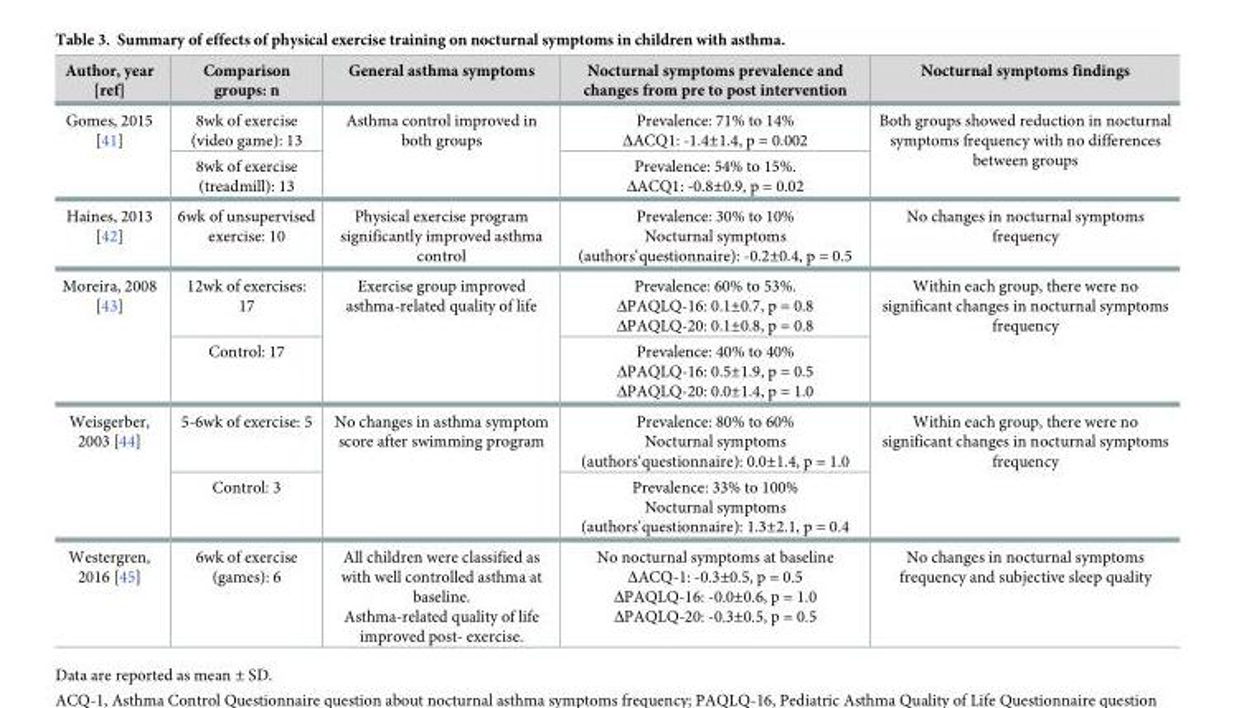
<table><thead><tr><td>Author, year [ref]</td><td>Comparison groups: n</td><td>General asthma symptoms</td><td>Nocturnal symptoms prevalence and changes from pre to post intervention</td><td>Nocturnal symptoms findings</td></tr></thead><tbody><tr><td rowspan="2">Gomes, 2015 [41]</td><td>8wk of exercise (video game): 13</td><td rowspan="2">Asthma control improved in both groups</td><td>Prevalence: 71% to 14% ΔACQ1: -1.4±1.4, p = 0.002</td><td rowspan="2">Both groups showed reduction in nocturnal symptoms frequency with no differences between groups</td></tr><tr><td>8wk of exercise (treadmill): 13</td><td>Prevalence: 54% to 15%. ΔACQ1: -0.8±0.9, p = 0.02</td></tr><tr><td>Haines, 2013 [42]</td><td>6wk of unsupervised exercise: 10</td><td>Physical exercise program significantly improved asthma control</td><td>Prevalence: 30% to 10% Nocturnal symptoms (authors‘questionnaire): -0.2±0.4, p = 0.5</td><td>No changes in nocturnal symptoms frequency</td></tr><tr><td rowspan="2">Moreira, 2008 [43]</td><td>12wk of exercises: 17</td><td rowspan="2">Exercise group improved asthma-related quality of life</td><td>Prevalence: 60% to 53%. ΔPAQLQ-16: 0.1±0.7, p = 0.8 ΔPAQLQ-20: 0.1±0.8, p = 0.8</td><td rowspan="2">Within each group, there were no significant changes in nocturnal symptoms frequency</td></tr><tr><td>Control: 17</td><td>Prevalence: 40% to 40% ΔPAQLQ-16: 0.5±1.9, p = 0.5 ΔPAQLQ-20: 0.0±1.4, p = 1.0</td></tr><tr><td rowspan="2">Weisgerber, 2003 [44]</td><td>5-6wk of exercise: 5</td><td rowspan="2">No changes in asthma symptom score after swimming program</td><td>Prevalence: 80% to 60% Nocturnal symptoms (authors‘questionnaire): 0.0±1.4, p = 1.0</td><td rowspan="2">Within each group, there were no significant changes in nocturnal symptoms frequency</td></tr><tr><td>Control: 3</td><td>Prevalence: 33% to 100% Nocturnal symptoms (authors‘questionnaire): 1.3±2.1, p = 0.4</td></tr><tr><td>Westergren, 2016 [45]</td><td>6wk of exercise (games): 6</td><td>All children were classified as with well controlled asthma at baseline. Asthma-related quality of life improved post- exercise.</td><td>No nocturnal symptoms at baseline ΔACQ-1: -0.3±0.5, p = 0.5 ΔPAQLQ-16: -0.0±0.6, p = 1.0 ΔPAQLQ-20: -0.3±0.5, p = 0.5</td><td>No changes in nocturnal symptoms frequency and subjective sleep quality</td></tr></tbody></table>